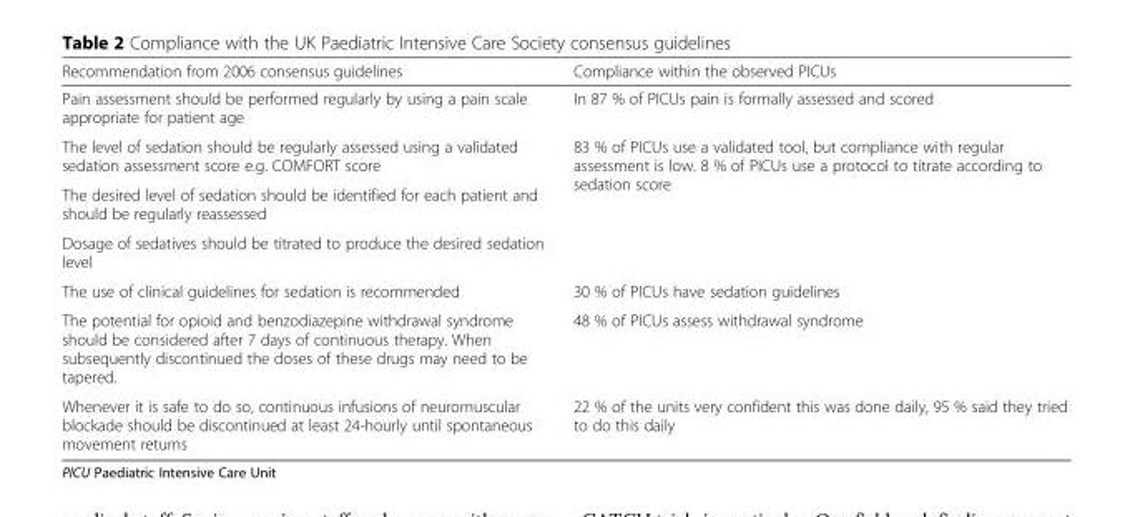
<table><thead><tr><td>Recommendation from 2006 consensus guidelines</td><td>Compliance within the observed PICUs</td></tr></thead><tbody><tr><td>Pain assessment should be performed regularly by using a pain scale appropriate for patient age</td><td>In 87 % of PICUs pain is formally assessed and scored</td></tr><tr><td>The level of sedation should be regularly assessed using a validated sedation assessment score e.g. COMFORT score</td><td rowspan="3">83 % of PICUs use a validated tool, but compliance with regular assessment is low. 8 % of PICUs use a protocol to titrate according to sedation score</td></tr><tr><td>The desired level of sedation should be identified for each patient and should be regularly reassessed</td></tr><tr><td>Dosage of sedatives should be titrated to produce the desired sedation level</td></tr><tr><td>The use of clinical guidelines for sedation is recommended</td><td>30 % of PICUs have sedation guidelines</td></tr><tr><td>The potential for opioid and benzodiazepine withdrawal syndrome should be considered after 7 days of continuous therapy. When subsequently discontinued the doses of these drugs may need to be tapered.</td><td>48 % of PICUs assess withdrawal syndrome</td></tr><tr><td>Whenever it is safe to do so, continuous infusions of neuromuscular blockade should be discontinued at least 24-hourly until spontaneous movement returns</td><td>22 % of the units very confident this was done daily, 95 % said they tried to do this daily</td></tr></tbody></table>